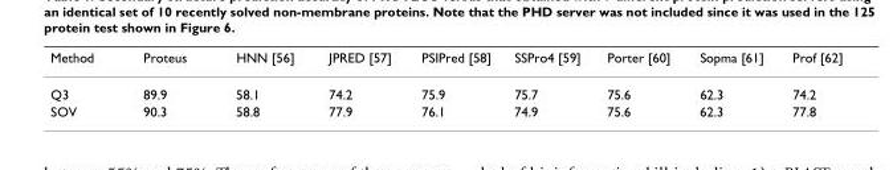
<table><thead><tr><td>Method</td><td>Proteus</td><td>HNN [56]</td><td>JPRED [57]</td><td>PSIPred [58]</td><td>SSPro4 [59]</td><td>Porter [60]</td><td>Sopma [61]</td><td>Prof [62]</td></tr></thead><tbody><tr><td>Q3</td><td>89.9</td><td>58.1</td><td>74.2</td><td>75.9</td><td>75.7</td><td>75.6</td><td>62.3</td><td>74.2</td></tr><tr><td>SOV</td><td>90.3</td><td>58.8</td><td>77.9</td><td>76.1</td><td>74.9</td><td>75.6</td><td>62.3</td><td>77.8</td></tr></tbody></table>